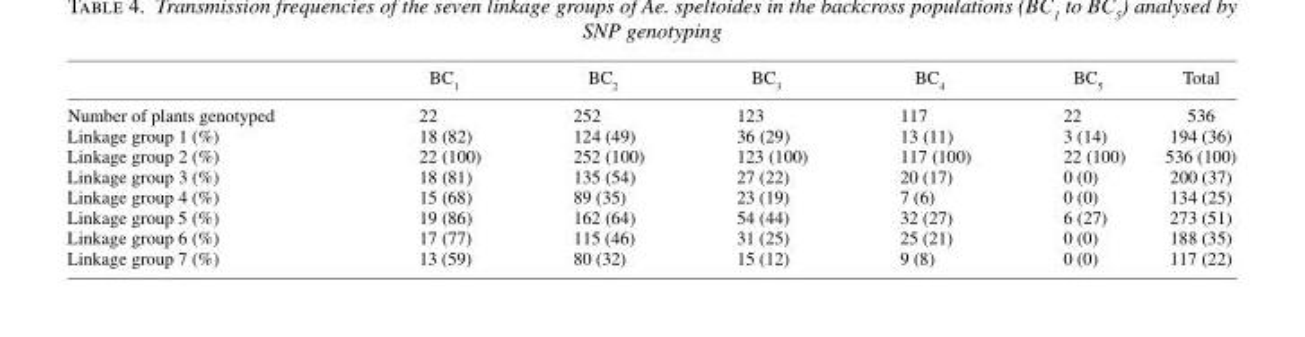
<table><thead><tr><td></td><td>BC<sub>1</sub></td><td>BC<sub>2</sub></td><td>BC<sub>3</sub></td><td>BC<sub>4</sub></td><td>BC<sub>5</sub></td><td>Total</td></tr></thead><tbody><tr><td>Number of plants genotyped</td><td>22</td><td>252</td><td>123</td><td>117</td><td>22</td><td>536</td></tr><tr><td>Linkage group 1 (%)</td><td>18 (82)</td><td>124 (49)</td><td>36 (29)</td><td>13 (11)</td><td>3 (14)</td><td>194 (36)</td></tr><tr><td>Linkage group 2 (%)</td><td>22 (100)</td><td>252 (100)</td><td>123 (100)</td><td>117 (100)</td><td>22 (100)</td><td>536 (100)</td></tr><tr><td>Linkage group 3 (%)</td><td>18 (81)</td><td>135 (54)</td><td>27 (22)</td><td>20 (17)</td><td>0 (0)</td><td>200 (37)</td></tr><tr><td>Linkage group 4 (%)</td><td>15 (68)</td><td>89 (35)</td><td>23 (19)</td><td>7 (6)</td><td>0 (0)</td><td>134 (25)</td></tr><tr><td>Linkage group 5 (%)</td><td>19 (86)</td><td>162 (64)</td><td>54 (44)</td><td>32 (27)</td><td>6 (27)</td><td>273 (51)</td></tr><tr><td>Linkage group 6 (%)</td><td>17 (77)</td><td>115 (46)</td><td>31 (25)</td><td>25 (21)</td><td>0 (0)</td><td>188 (35)</td></tr><tr><td>Linkage group 7 (%)</td><td>13 (59)</td><td>80 (32)</td><td>15 (12)</td><td>9 (8)</td><td>0 (0)</td><td>117 (22)</td></tr></tbody></table>